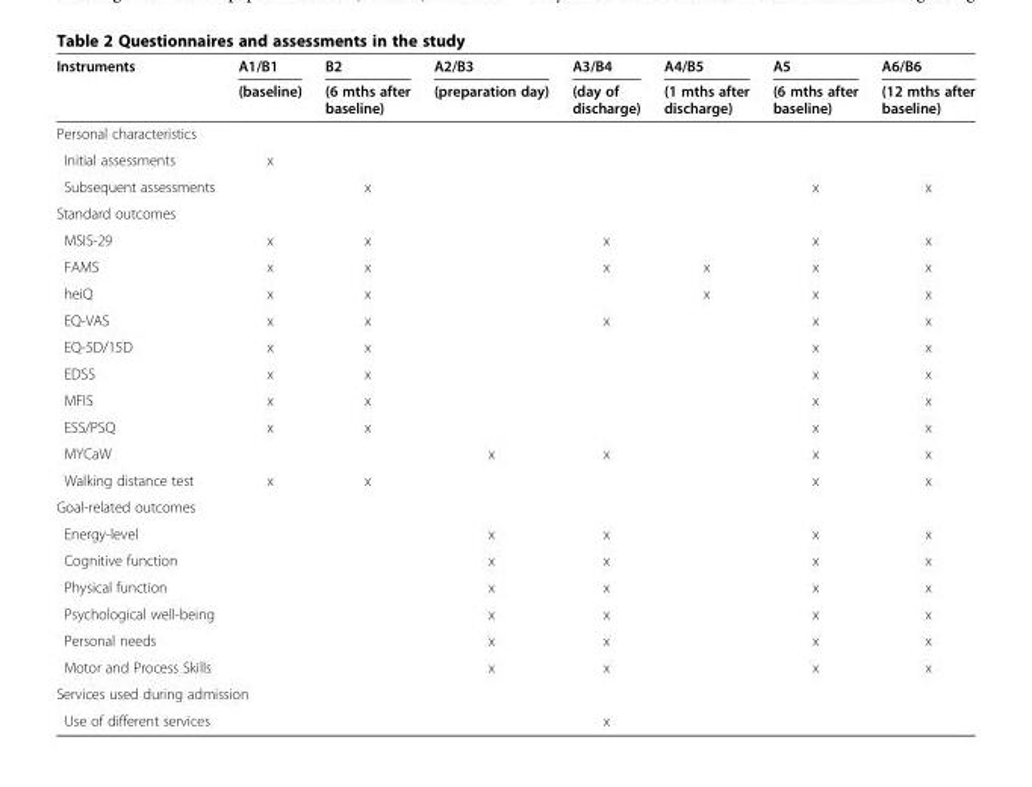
<table><thead><tr><td rowspan="2">Instruments</td><td rowspan="2">A1/B1 (baseline)</td><td rowspan="2">B2 (6 mths after baseline)</td><td rowspan="2">A2/B3 (preparation day)</td><td rowspan="2">A3/B4 (day of discharge)</td><td rowspan="2">A4/B5 (1 mths after discharge)</td><td rowspan="2">A5 (6 mths after baseline)</td><td rowspan="2">A6/B6 (12 mths after baseline)</td></tr><tr></tr></thead><tbody><tr><td colspan="8">Personal characteristics</td></tr><tr><td>Initial assessments</td><td>x</td><td></td><td></td><td></td><td></td><td></td><td></td></tr><tr><td>Subsequent assessments</td><td></td><td>x</td><td></td><td></td><td></td><td>x</td><td>x</td></tr><tr><td colspan="8">Standard outcomes</td></tr><tr><td>MSIS-29</td><td>x</td><td>x</td><td></td><td>x</td><td></td><td>x</td><td>x</td></tr><tr><td>FAMS</td><td>x</td><td>x</td><td></td><td>x</td><td>x</td><td>x</td><td>x</td></tr><tr><td>heiQ</td><td>x</td><td>x</td><td></td><td></td><td>x</td><td>x</td><td>x</td></tr><tr><td>EQ-VAS</td><td>x</td><td>x</td><td></td><td>x</td><td></td><td>x</td><td>x</td></tr><tr><td>EQ-5D/15D</td><td>x</td><td>x</td><td></td><td></td><td></td><td>x</td><td>x</td></tr><tr><td>EDSS</td><td>x</td><td>x</td><td></td><td></td><td></td><td>x</td><td>x</td></tr><tr><td>MFIS</td><td>x</td><td>x</td><td></td><td></td><td></td><td>x</td><td>x</td></tr><tr><td>ESS/PSQ</td><td>x</td><td>x</td><td></td><td></td><td></td><td>x</td><td>x</td></tr><tr><td>MYCaW</td><td></td><td></td><td>x</td><td>x</td><td></td><td>x</td><td>x</td></tr><tr><td>Walking distance test</td><td>x</td><td>x</td><td></td><td></td><td></td><td>x</td><td>x</td></tr><tr><td colspan="8">Goal-related outcomes</td></tr><tr><td>Energy-level</td><td></td><td></td><td>x</td><td>x</td><td></td><td>x</td><td>x</td></tr><tr><td>Cognitive function</td><td></td><td></td><td>x</td><td>x</td><td></td><td>x</td><td>x</td></tr><tr><td>Physical function</td><td></td><td></td><td>x</td><td>x</td><td></td><td>x</td><td>x</td></tr><tr><td>Psychological well-being</td><td></td><td></td><td>x</td><td>x</td><td></td><td>x</td><td>x</td></tr><tr><td>Personal needs</td><td></td><td></td><td>x</td><td>x</td><td></td><td>x</td><td>x</td></tr><tr><td>Motor and Process Skills</td><td></td><td></td><td>x</td><td>x</td><td></td><td>x</td><td>x</td></tr><tr><td colspan="8">Services used during admission</td></tr><tr><td>Use of different services</td><td></td><td></td><td></td><td>x</td><td></td><td></td><td></td></tr></tbody></table>